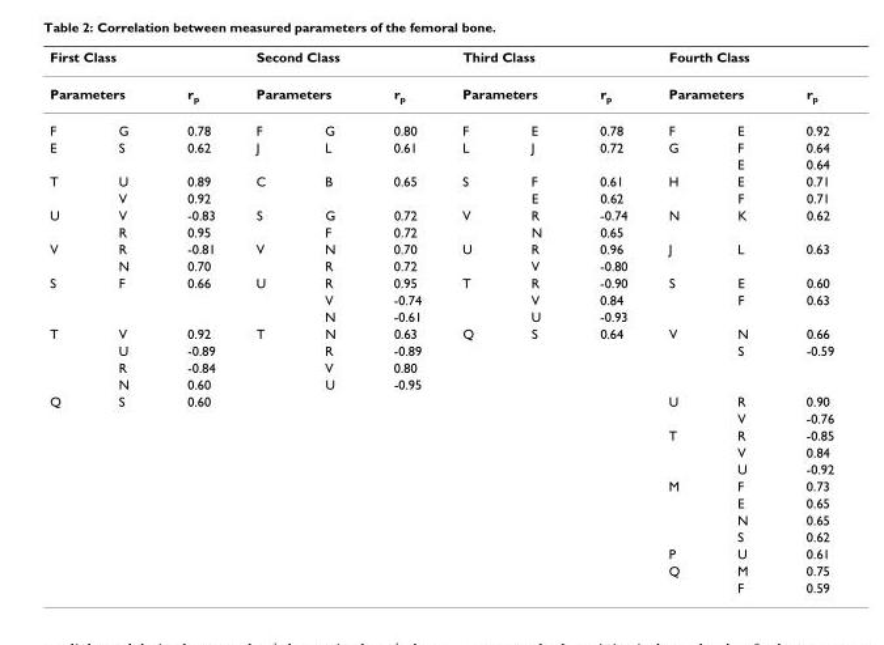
<table><thead><tr><td colspan="3">First Class</td><td colspan="3">Second Class</td><td colspan="3">Third Class</td><td colspan="3">Fourth Class</td></tr><tr><td colspan="2">Parameters</td><td rowspan="2">rp 0.78</td><td colspan="2">Parameters</td><td rowspan="2">rp 0.80</td><td colspan="2">Parameters</td><td rowspan="2">rp 0.78</td><td colspan="2">Parameters</td><td rowspan="2">rp 0.92</td></tr><tr><td>F</td><td>G</td><td>F</td><td>G</td><td>F</td><td>E</td><td>F</td><td>E</td></tr></thead><tbody><tr><td rowspan="2">E</td><td>S</td><td>0.62</td><td>J</td><td>L</td><td>0.61</td><td>L</td><td>J</td><td>0.72</td><td>G</td><td>F</td><td>0.64</td></tr><tr><td></td><td></td><td></td><td></td><td></td><td></td><td></td><td></td><td></td><td>E</td><td>0.64</td></tr><tr><td rowspan="2">T</td><td>U</td><td>0.89</td><td>C</td><td>B</td><td>0.65</td><td>S</td><td>F</td><td>0.61</td><td>H</td><td>E</td><td>0.71</td></tr><tr><td>V</td><td>0.92</td><td></td><td></td><td></td><td></td><td>E</td><td>0.62</td><td></td><td>F</td><td>0.71</td></tr><tr><td rowspan="2">U</td><td>V</td><td>-0.83</td><td>S</td><td>G</td><td>0.72</td><td>V</td><td>R</td><td>-0.74</td><td>N</td><td>K</td><td>0.62</td></tr><tr><td>R</td><td>0.95</td><td></td><td>F</td><td>0.72</td><td></td><td>N</td><td>0.65</td><td></td><td></td><td></td></tr><tr><td rowspan="2">V</td><td>R</td><td>-0.81</td><td>V</td><td>N</td><td>0.70</td><td>U</td><td>R</td><td>0.96</td><td>J</td><td>L</td><td>0.63</td></tr><tr><td>N</td><td>0.70</td><td></td><td>R</td><td>0.72</td><td></td><td>V</td><td>-0.80</td><td></td><td></td><td></td></tr><tr><td rowspan="3">S</td><td>F</td><td>0.66</td><td>U</td><td>R</td><td>0.95</td><td>T</td><td>R</td><td>-0.90</td><td>S</td><td>E</td><td>0.60</td></tr><tr><td></td><td></td><td></td><td>V</td><td>-0.74</td><td></td><td>V</td><td>0.84</td><td></td><td>F</td><td>0.63</td></tr><tr><td></td><td></td><td></td><td>N</td><td>-0.61</td><td></td><td>U</td><td>-0.93</td><td></td><td></td><td></td></tr><tr><td rowspan="4">T</td><td>V</td><td>0.92</td><td>T</td><td>N</td><td>0.63</td><td>Q</td><td>S</td><td>0.64</td><td>V</td><td>N</td><td>0.66</td></tr><tr><td>U</td><td>-0.89</td><td></td><td>R</td><td>-0.89</td><td></td><td></td><td></td><td></td><td>S</td><td>-0.59</td></tr><tr><td>R</td><td>-0.84</td><td></td><td>V</td><td>0.80</td><td></td><td></td><td></td><td></td><td></td><td></td></tr><tr><td>N</td><td>0.60</td><td></td><td>U</td><td>-0.95</td><td></td><td></td><td></td><td></td><td></td><td></td></tr><tr><td rowspan="12">Q</td><td>S</td><td>0.60</td><td></td><td></td><td></td><td></td><td></td><td></td><td>U</td><td>R</td><td>0.90</td></tr><tr><td></td><td></td><td></td><td></td><td></td><td></td><td></td><td></td><td></td><td>V</td><td>-0.76</td></tr><tr><td></td><td></td><td></td><td></td><td></td><td></td><td></td><td></td><td>T</td><td>R</td><td>-0.85</td></tr><tr><td></td><td></td><td></td><td></td><td></td><td></td><td></td><td></td><td></td><td>V</td><td>0.84</td></tr><tr><td></td><td></td><td></td><td></td><td></td><td></td><td></td><td></td><td></td><td>U</td><td>-0.92</td></tr><tr><td></td><td></td><td></td><td></td><td></td><td></td><td></td><td></td><td>M</td><td>F</td><td>0.73</td></tr><tr><td></td><td></td><td></td><td></td><td></td><td></td><td></td><td></td><td></td><td>E</td><td>0.65</td></tr><tr><td></td><td></td><td></td><td></td><td></td><td></td><td></td><td></td><td></td><td>N</td><td>0.65</td></tr><tr><td></td><td></td><td></td><td></td><td></td><td></td><td></td><td></td><td></td><td>S</td><td>0.62</td></tr><tr><td></td><td></td><td></td><td></td><td></td><td></td><td></td><td></td><td>P</td><td>U</td><td>0.61</td></tr><tr><td></td><td></td><td></td><td></td><td></td><td></td><td></td><td></td><td>Q</td><td>M</td><td>0.75</td></tr><tr><td></td><td></td><td></td><td></td><td></td><td></td><td></td><td></td><td></td><td>F</td><td>0.59</td></tr></tbody></table>